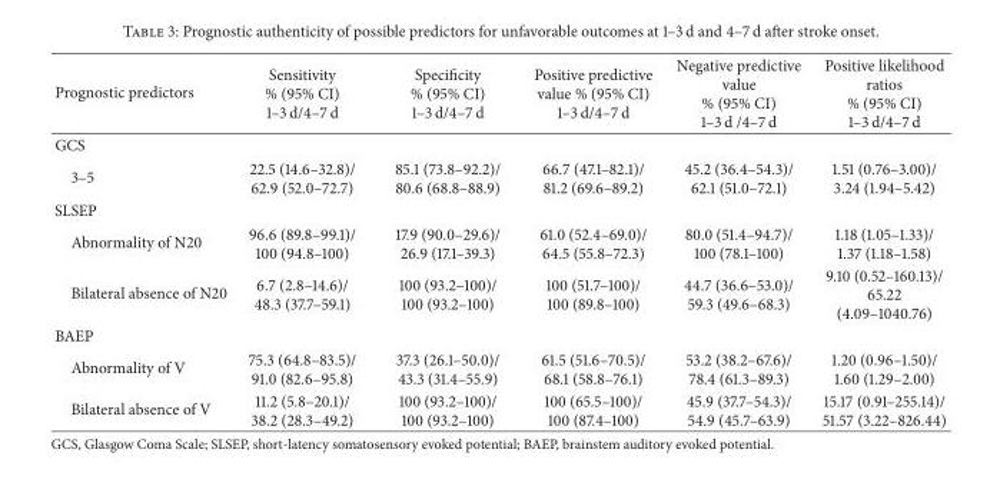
<table><thead><tr><td>Prognostic predictors</td><td>Sensitivity % (95% CI) 1–3 d/4–7 d</td><td>Specificity % (95% CI) 1–3 d/4–7 d</td><td>Positive predictive value % (95% CI) 1–3 d/4–7 d</td><td>Negative predictive value % (95% CI) 1–3 d /4–7 d</td><td>Positive likelihood ratios % (95% CI) 1–3 d/4–7 d</td></tr></thead><tbody><tr><td colspan="6">GCS</td></tr><tr><td>3–5</td><td>22.5 (14.6–32.8)/ 62.9 (52.0–72.7)</td><td>85.1 (73.8–92.2)/ 80.6 (68.8–88.9)</td><td>66.7 (47.1–82.1)/ 81.2 (69.6–89.2)</td><td>45.2 (36.4–54.3)/ 62.1 (51.0–72.1)</td><td>1.51 (0.76–3.00)/ 3.24 (1.94–5.42)</td></tr><tr><td colspan="6">SLSEP</td></tr><tr><td>Abnormality of N20</td><td>96.6 (89.8–99.1)/ 100 (94.8–100)</td><td>17.9 (90.0–29.6)/ 26.9 (17.1–39.3)</td><td>61.0 (52.4–69.0)/ 64.5 (55.8–72.3)</td><td>80.0 (51.4–94.7)/ 100 (78.1–100)</td><td>1.18 (1.05–1.33)/ 1.37 (1.18–1.58)</td></tr><tr><td>Bilateral absence of N20</td><td>6.7 (2.8–14.6)/ 48.3 (37.7–59.1)</td><td>100 (93.2–100)/ 100 (93.2–100)</td><td>100 (51.7–100)/ 100 (89.8–100)</td><td>44.7 (36.6–53.0)/ 59.3 (49.6–68.3)</td><td>9.10 (0.52–160.13)/ 65.22 (4.09–1040.76)</td></tr><tr><td colspan="6">BAEP</td></tr><tr><td>Abnormality of V</td><td>75.3 (64.8–83.5)/ 91.0 (82.6–95.8)</td><td>37.3 (26.1–50.0)/ 43.3 (31.4–55.9)</td><td>61.5 (51.6–70.5)/ 68.1 (58.8–76.1)</td><td>53.2 (38.2–67.6)/ 78.4 (61.3–89.3)</td><td>1.20 (0.96–1.50)/ 1.60 (1.29–2.00)</td></tr><tr><td>Bilateral absence of V</td><td>11.2 (5.8–20.1)/ 38.2 (28.3–49.2)</td><td>100 (93.2–100)/ 100 (93.2–100)</td><td>100 (65.5–100)/ 100 (87.4–100)</td><td>45.9 (37.7–54.3)/ 54.9 (45.7–63.9)</td><td>15.17 (0.91–255.14)/ 51.57 (3.22–826.44)</td></tr></tbody></table>